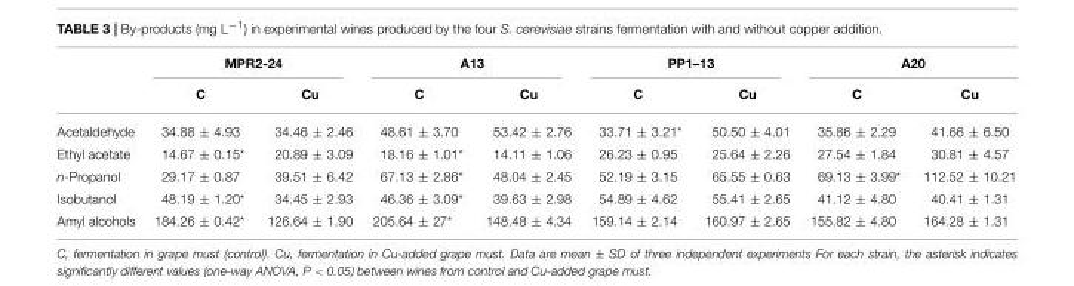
<table><thead><tr><td rowspan="2"></td><td colspan="2">MPR2-24</td><td colspan="2">A13</td><td colspan="2">PP1–13</td><td colspan="2">A20</td></tr><tr><td>C</td><td>Cu</td><td>C</td><td>Cu</td><td>C</td><td>Cu</td><td>C</td><td>Cu</td></tr></thead><tbody><tr><td>Acetaldehyde</td><td>34.88 ± 4.93</td><td>34.46 ± 2.46</td><td>48.61 ± 3.70</td><td>53.42 ± 2.76</td><td>33.71 ± 3.21*</td><td>50.50 ± 4.01</td><td>35.86 ± 2.29</td><td>41.66 ± 6.50</td></tr><tr><td>Ethyl acetate</td><td>14.67 ± 0.15*</td><td>20.89 ± 3.09</td><td>18.16 ± 1.01*</td><td>14.11 ± 1.06</td><td>26.23 ± 0.95</td><td>25.64 ± 2.26</td><td>27.54 ± 1.84</td><td>30.81 ± 4.57</td></tr><tr><td>n-Propanol</td><td>29.17 ± 0.87</td><td>39.51 ± 6.42</td><td>67.13 ± 2.86*</td><td>48.04 ± 2.45</td><td>52.19 ± 3.15</td><td>65.55 ± 0.63</td><td>69.13 ± 3.99*</td><td>112.52 ± 10.21</td></tr><tr><td>Isobutanol</td><td>48.19 ± 1.20*</td><td>34.45 ± 2.93</td><td>46.36 ± 3.09*</td><td>39.63 ± 2.98</td><td>54.89 ± 4.62</td><td>55.41 ± 2.65</td><td>41.12 ± 4.80</td><td>40.41 ± 1.31</td></tr><tr><td>Amyl alcohols</td><td>184.26 ± 0.42*</td><td>126.64 ± 1.90</td><td>205.64 ± 27*</td><td>148.48 ± 4.34</td><td>159.14 ± 2.14</td><td>160.97 ± 2.65</td><td>155.82 ± 4.80</td><td>164.28 ± 1.31</td></tr></tbody></table>